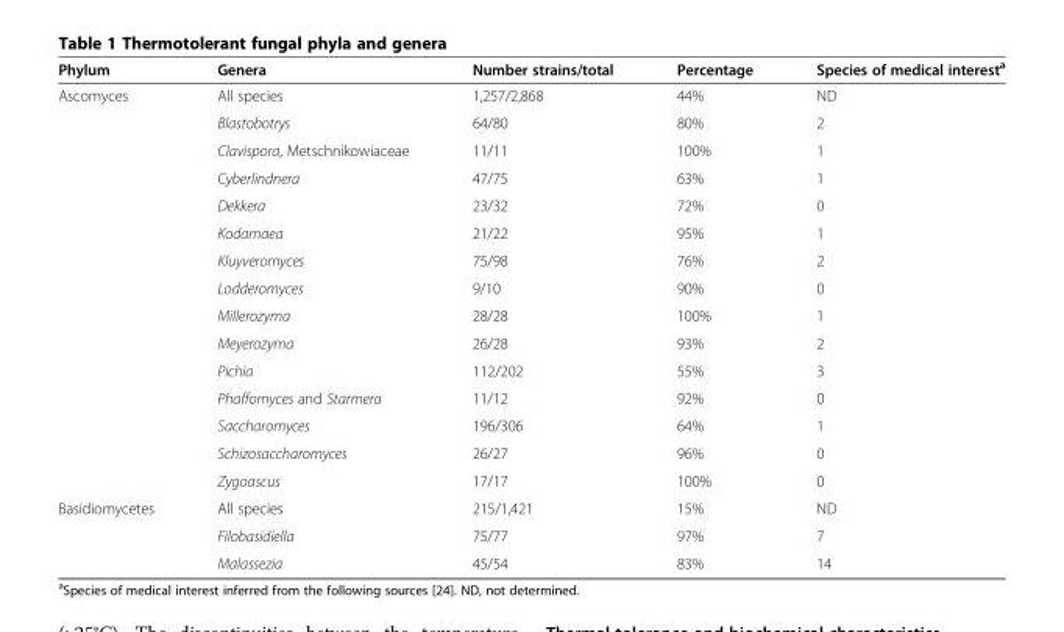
<table><thead><tr><td>Phylum</td><td>Genera</td><td>Number strains/total</td><td>Percentage</td><td>Species of medical interest<sup>a</sup></td></tr></thead><tbody><tr><td rowspan="15">Ascomyces</td><td>All species</td><td>1,257/2,868</td><td>44%</td><td>ND</td></tr><tr><td>Blastobotrys</td><td>64/80</td><td>80%</td><td>2</td></tr><tr><td>Clavispora, Metschnikowiaceae</td><td>11/11</td><td>100%</td><td>1</td></tr><tr><td>Cyberlindnera</td><td>47/75</td><td>63%</td><td>1</td></tr><tr><td>Dekkera</td><td>23/32</td><td>72%</td><td>0</td></tr><tr><td>Kodamaea</td><td>21/22</td><td>95%</td><td>1</td></tr><tr><td>Kluyveromyces</td><td>75/98</td><td>76%</td><td>2</td></tr><tr><td>Lodderomyces</td><td>9/10</td><td>90%</td><td>0</td></tr><tr><td>Millerozyma</td><td>28/28</td><td>100%</td><td>1</td></tr><tr><td>Meyerozyma</td><td>26/28</td><td>93%</td><td>2</td></tr><tr><td>Pichia</td><td>112/202</td><td>55%</td><td>3</td></tr><tr><td>Phaffomyces and Starmera</td><td>11/12</td><td>92%</td><td>0</td></tr><tr><td>Saccharomyces</td><td>196/306</td><td>64%</td><td>1</td></tr><tr><td>Schizosaccharomyces</td><td>26/27</td><td>96%</td><td>0</td></tr><tr><td>Zygoascus</td><td>17/17</td><td>100%</td><td>0</td></tr><tr><td rowspan="3">Basidiomycetes</td><td>All species</td><td>215/1,421</td><td>15%</td><td>ND</td></tr><tr><td>Filobasidiella</td><td>75/77</td><td>97%</td><td>7</td></tr><tr><td>Malassezia</td><td>45/54</td><td>83%</td><td>14</td></tr></tbody></table>